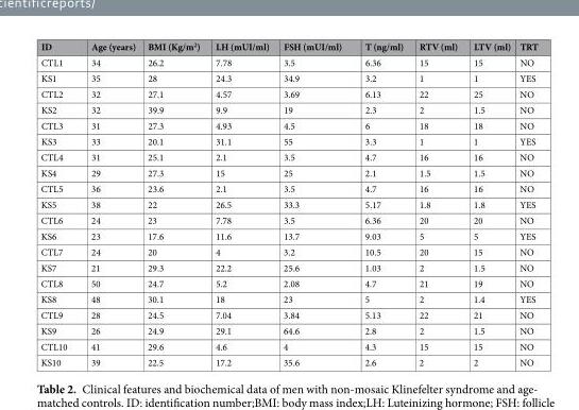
<table><thead><tr><td>ID</td><td>Age (years)</td><td>BMI (Kg/m<sup>2</sup>)</td><td>LH (mUI/ml)</td><td>FSH (mUI/ml)</td><td>T (ng/ml)</td><td>RTV (ml)</td><td>LTV (ml)</td><td>TRT</td></tr></thead><tbody><tr><td>CTL1</td><td>34</td><td>26.2</td><td>7.78</td><td>3.5</td><td>6.36</td><td>15</td><td>15</td><td>NO</td></tr><tr><td>KS1</td><td>35</td><td>28</td><td>24.3</td><td>34.9</td><td>3.2</td><td>1</td><td>1</td><td>YES</td></tr><tr><td>CTL2</td><td>32</td><td>27.1</td><td>4.57</td><td>3.69</td><td>6.13</td><td>22</td><td>25</td><td>NO</td></tr><tr><td>KS2</td><td>32</td><td>39.9</td><td>9.9</td><td>19</td><td>2.3</td><td>2</td><td>1.5</td><td>NO</td></tr><tr><td>CTL3</td><td>31</td><td>27.3</td><td>4.93</td><td>4.5</td><td>6</td><td>18</td><td>18</td><td>NO</td></tr><tr><td>KS3</td><td>33</td><td>20.1</td><td>31.1</td><td>55</td><td>3.3</td><td>1</td><td>1</td><td>YES</td></tr><tr><td>CTL4</td><td>31</td><td>25.1</td><td>2.1</td><td>3.5</td><td>4.7</td><td>16</td><td>16</td><td>NO</td></tr><tr><td>KS4</td><td>29</td><td>27.3</td><td>15</td><td>25</td><td>2.1</td><td>1.5</td><td>1.5</td><td>NO</td></tr><tr><td>CTL5</td><td>36</td><td>23.6</td><td>2.1</td><td>3.5</td><td>4.7</td><td>16</td><td>16</td><td>NO</td></tr><tr><td>KS5</td><td>38</td><td>22</td><td>26.5</td><td>33.3</td><td>5.17</td><td>1.8</td><td>1.8</td><td>YES</td></tr><tr><td>CTL6</td><td>24</td><td>23</td><td>7.78</td><td>3.5</td><td>6.36</td><td>20</td><td>20</td><td>NO</td></tr><tr><td>KS6</td><td>23</td><td>17.6</td><td>11.6</td><td>13.7</td><td>9.03</td><td>5</td><td>5</td><td>YES</td></tr><tr><td>CTL7</td><td>24</td><td>20</td><td>4</td><td>3.2</td><td>10.5</td><td>20</td><td>15</td><td>NO</td></tr><tr><td>KS7</td><td>21</td><td>29.3</td><td>22.2</td><td>25.6</td><td>1.03</td><td>2</td><td>1.5</td><td>NO</td></tr><tr><td>CTL8</td><td>50</td><td>24.7</td><td>5.2</td><td>2.08</td><td>4.7</td><td>21</td><td>19</td><td>NO</td></tr><tr><td>KS8</td><td>48</td><td>30.1</td><td>18</td><td>23</td><td>5</td><td>2</td><td>1.4</td><td>YES</td></tr><tr><td>CTL9</td><td>28</td><td>24.5</td><td>7.04</td><td>3.84</td><td>5.13</td><td>22</td><td>21</td><td>NO</td></tr><tr><td>KS9</td><td>26</td><td>24.9</td><td>29.1</td><td>64.6</td><td>2.8</td><td>2</td><td>1.5</td><td>NO</td></tr><tr><td>CTL10</td><td>41</td><td>29.6</td><td>4.6</td><td>4</td><td>4.3</td><td>15</td><td>15</td><td>NO</td></tr><tr><td>KS10</td><td>39</td><td>22.5</td><td>17.2</td><td>35.6</td><td>2.6</td><td>2</td><td>2</td><td>NO</td></tr></tbody></table>